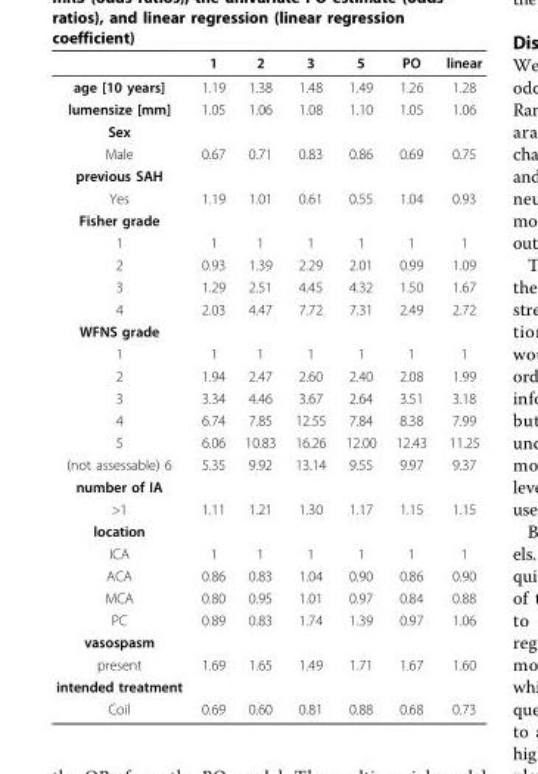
<table><thead><tr><td></td><td>1</td><td>2</td><td>3</td><td>5</td><td>PO</td><td>linear</td></tr></thead><tbody><tr><td>age [10 years]</td><td>1.19</td><td>1.38</td><td>1.48</td><td>1.49</td><td>1.26</td><td>1.28</td></tr><tr><td>lumensize [mm]</td><td>1.05</td><td>1.06</td><td>1.08</td><td>1.10</td><td>1.05</td><td>1.06</td></tr><tr><td colspan="7">Sex</td></tr><tr><td>Male</td><td>0.67</td><td>0.71</td><td>0.83</td><td>0.86</td><td>0.69</td><td>0.75</td></tr><tr><td colspan="7">previous SAH</td></tr><tr><td>Yes</td><td>1.19</td><td>1.01</td><td>0.61</td><td>0.55</td><td>1.04</td><td>0.93</td></tr><tr><td colspan="7">Fisher grade</td></tr><tr><td>1</td><td>1</td><td>1</td><td>1</td><td>1</td><td>1</td><td>1</td></tr><tr><td>2</td><td>0.93</td><td>1.39</td><td>2.29</td><td>2.01</td><td>0.99</td><td>1.09</td></tr><tr><td>3</td><td>1.29</td><td>2.51</td><td>4.45</td><td>4.32</td><td>1.50</td><td>1.67</td></tr><tr><td>4</td><td>2.03</td><td>4.47</td><td>7.72</td><td>7.31</td><td>2.49</td><td>2.72</td></tr><tr><td colspan="7">WFNS grade</td></tr><tr><td>1</td><td>1</td><td>1</td><td>1</td><td>1</td><td>1</td><td>1</td></tr><tr><td>2</td><td>1.94</td><td>2.47</td><td>2.60</td><td>2.40</td><td>2.08</td><td>1.99</td></tr><tr><td>3</td><td>3.34</td><td>4.46</td><td>3.67</td><td>2.64</td><td>3.51</td><td>3.18</td></tr><tr><td>4</td><td>6.74</td><td>7.85</td><td>12.55</td><td>7.84</td><td>8.38</td><td>7.99</td></tr><tr><td>5</td><td>6.06</td><td>10.83</td><td>16.26</td><td>12.00</td><td>12.43</td><td>11.25</td></tr><tr><td>(not assessable) 6</td><td>5.35</td><td>9.92</td><td>13.14</td><td>9.55</td><td>9.97</td><td>9.37</td></tr><tr><td colspan="7">number of IA</td></tr><tr><td>&gt;1</td><td>1.11</td><td>1.21</td><td>1.30</td><td>1.17</td><td>1.15</td><td>1.15</td></tr><tr><td colspan="7">location</td></tr><tr><td>ICA</td><td>1</td><td>1</td><td>1</td><td>1</td><td>1</td><td>1</td></tr><tr><td>ACA</td><td>0.86</td><td>0.83</td><td>1.04</td><td>0.90</td><td>0.86</td><td>0.90</td></tr><tr><td>MCA</td><td>0.80</td><td>0.95</td><td>1.01</td><td>0.97</td><td>0.84</td><td>0.88</td></tr><tr><td>PC</td><td>0.89</td><td>0.83</td><td>1.74</td><td>1.39</td><td>0.97</td><td>1.06</td></tr><tr><td colspan="7">vasospasm</td></tr><tr><td>present</td><td>1.69</td><td>1.65</td><td>1.49</td><td>1.71</td><td>1.67</td><td>1.60</td></tr><tr><td colspan="7">intended treatment</td></tr><tr><td>Coil</td><td>0.69</td><td>0.60</td><td>0.81</td><td>0.88</td><td>0.68</td><td>0.73</td></tr></tbody></table>